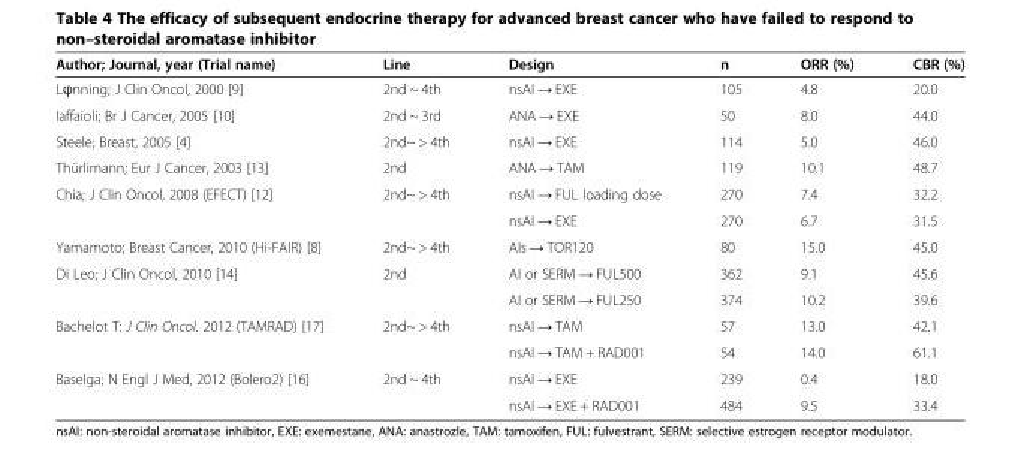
<table><thead><tr><td>Author; Journal, year (Trial name)</td><td>Line</td><td>Design</td><td>n</td><td>ORR (%)</td><td>CBR (%)</td></tr></thead><tbody><tr><td>Lϕnning; J Clin Oncol, 2000 [9]</td><td>2nd ~ 4th</td><td>nsAI → EXE</td><td>105</td><td>4.8</td><td>20.0</td></tr><tr><td>Iaffaioli; Br J Cancer, 2005 [10]</td><td>2nd ~ 3rd</td><td>ANA → EXE</td><td>50</td><td>8.0</td><td>44.0</td></tr><tr><td>Steele; Breast, 2005 [4]</td><td>2nd~ &gt; 4th</td><td>nsAI → EXE</td><td>114</td><td>5.0</td><td>46.0</td></tr><tr><td>Thürlimann; Eur J Cancer, 2003 [13]</td><td>2nd</td><td>ANA → TAM</td><td>119</td><td>10.1</td><td>48.7</td></tr><tr><td rowspan="2">Chia; J Clin Oncol, 2008 (EFECT) [12]</td><td rowspan="2">2nd~ &gt; 4th</td><td>nsAI → FUL loading dose</td><td>270</td><td>7.4</td><td>32.2</td></tr><tr><td>nsAI → EXE</td><td>270</td><td>6.7</td><td>31.5</td></tr><tr><td>Yamamoto; Breast Cancer, 2010 (Hi-FAIR) [8]</td><td>2nd~ &gt; 4th</td><td>AIs → TOR120</td><td>80</td><td>15.0</td><td>45.0</td></tr><tr><td rowspan="2">Di Leo; J Clin Oncol, 2010 [14]</td><td rowspan="2">2nd</td><td>AI or SERM → FUL500</td><td>362</td><td>9.1</td><td>45.6</td></tr><tr><td>AI or SERM → FUL250</td><td>374</td><td>10.2</td><td>39.6</td></tr><tr><td rowspan="2">Bachelot T: J Clin Oncol. 2012 (TAMRAD) [17]</td><td rowspan="2">2nd~ &gt; 4th</td><td>nsAI → TAM</td><td>57</td><td>13.0</td><td>42.1</td></tr><tr><td>nsAI → TAM + RAD001</td><td>54</td><td>14.0</td><td>61.1</td></tr><tr><td rowspan="2">Baselga; N Engl J Med, 2012 (Bolero2) [16]</td><td rowspan="2">2nd ~ 4th</td><td>nsAI → EXE</td><td>239</td><td>0.4</td><td>18.0</td></tr><tr><td>nsAI → EXE + RAD001</td><td>484</td><td>9.5</td><td>33.4</td></tr></tbody></table>